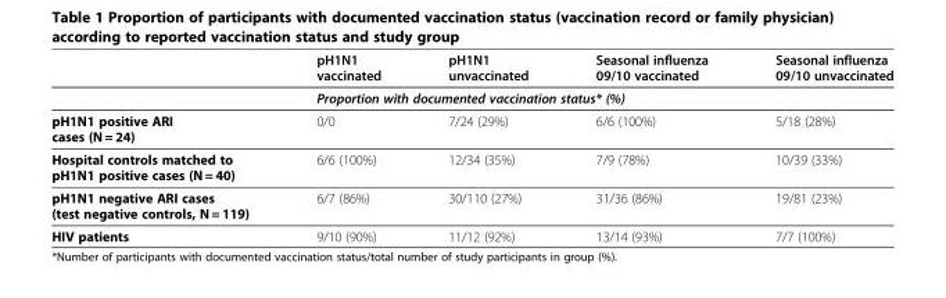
<table><thead><tr><td rowspan="2"></td><td>pH1N1 vaccinated</td><td>pH1N1 unvaccinated</td><td>Seasonal influenza 09/10 vaccinated</td><td>Seasonal influenza 09/10 unvaccinated</td></tr><tr><td colspan="4">Proportion with documented vaccination status* (%)</td></tr></thead><tbody><tr><td>pH1N1 positive ARI cases (N = 24)</td><td>0/0</td><td>7/24 (29%)</td><td>6/6 (100%)</td><td>5/18 (28%)</td></tr><tr><td>Hospital controls matched to pH1N1 positive cases (N = 40)</td><td>6/6 (100%)</td><td>12/34 (35%)</td><td>7/9 (78%)</td><td>10/39 (33%)</td></tr><tr><td>pH1N1 negative ARI cases (test negative controls, N = 119)</td><td>6/7 (86%)</td><td>30/110 (27%)</td><td>31/36 (86%)</td><td>19/81 (23%)</td></tr><tr><td>HIV patients</td><td>9/10 (90%)</td><td>11/12 (92%)</td><td>13/14 (93%)</td><td>7/7 (100%)</td></tr></tbody></table>